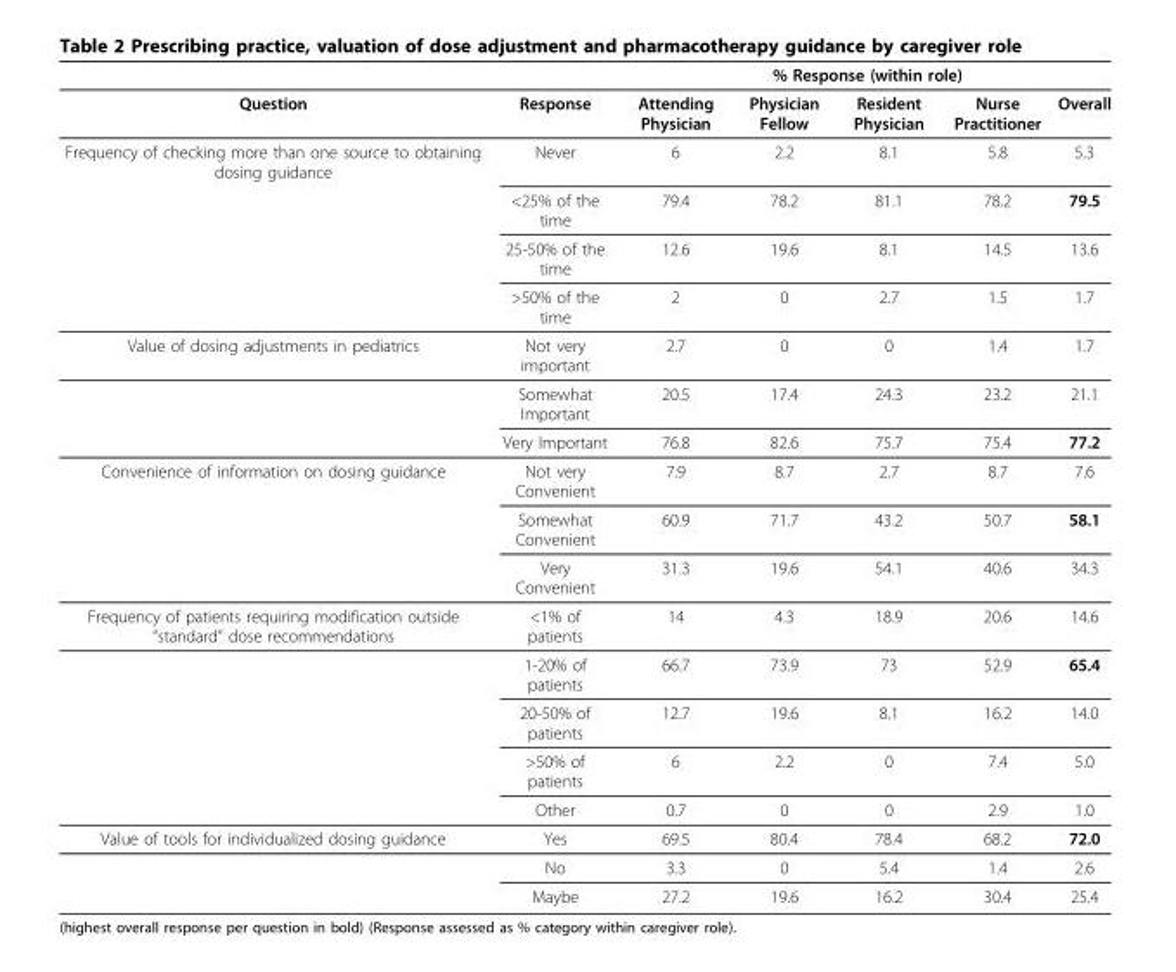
<table><thead><tr><td rowspan="2">Question</td><td rowspan="2">Response</td><td colspan="5">% Response (within role)</td></tr><tr><td>Attending Physician</td><td>Physician Fellow</td><td>Resident Physician</td><td>Nurse Practitioner</td><td>Overall</td></tr></thead><tbody><tr><td rowspan="4">Frequency of checking more than one source to obtaining dosing guidance</td><td>Never</td><td>6</td><td>2.2</td><td>8.1</td><td>5.8</td><td>5.3</td></tr><tr><td>&lt;25% of the time</td><td>79.4</td><td>78.2</td><td>81.1</td><td>78.2</td><td>79.5</td></tr><tr><td>25-50% of the time</td><td>12.6</td><td>19.6</td><td>8.1</td><td>14.5</td><td>13.6</td></tr><tr><td>&gt;50% of the time</td><td>2</td><td>0</td><td>2.7</td><td>1.5</td><td>1.7</td></tr><tr><td rowspan="3">Value of dosing adjustments in pediatrics</td><td>Not very important</td><td>2.7</td><td>0</td><td>0</td><td>1.4</td><td>1.7</td></tr><tr><td>Somewhat Important</td><td>20.5</td><td>17.4</td><td>24.3</td><td>23.2</td><td>21.1</td></tr><tr><td>Very Important</td><td>76.8</td><td>82.6</td><td>75.7</td><td>75.4</td><td>77.2</td></tr><tr><td rowspan="3">Convenience of information on dosing guidance</td><td>Not very Convenient</td><td>7.9</td><td>8.7</td><td>2.7</td><td>8.7</td><td>7.6</td></tr><tr><td>Somewhat Convenient</td><td>60.9</td><td>71.7</td><td>43.2</td><td>50.7</td><td>58.1</td></tr><tr><td>Very Convenient</td><td>31.3</td><td>19.6</td><td>54.1</td><td>40.6</td><td>34.3</td></tr><tr><td rowspan="5">Frequency of patients requiring modification outside “standard” dose recommendations</td><td>&lt;1% of patients</td><td>14</td><td>4.3</td><td>18.9</td><td>20.6</td><td>14.6</td></tr><tr><td>1-20% of patients</td><td>66.7</td><td>73.9</td><td>73</td><td>52.9</td><td>65.4</td></tr><tr><td>20-50% of patients</td><td>12.7</td><td>19.6</td><td>8.1</td><td>16.2</td><td>14.0</td></tr><tr><td>&gt;50% of patients</td><td>6</td><td>2.2</td><td>0</td><td>7.4</td><td>5.0</td></tr><tr><td>Other</td><td>0.7</td><td>0</td><td>0</td><td>2.9</td><td>1.0</td></tr><tr><td rowspan="3">Value of tools for individualized dosing guidance</td><td>Yes</td><td>69.5</td><td>80.4</td><td>78.4</td><td>68.2</td><td>72.0</td></tr><tr><td>No</td><td>3.3</td><td>0</td><td>5.4</td><td>1.4</td><td>2.6</td></tr><tr><td>Maybe</td><td>27.2</td><td>19.6</td><td>16.2</td><td>30.4</td><td>25.4</td></tr></tbody></table>